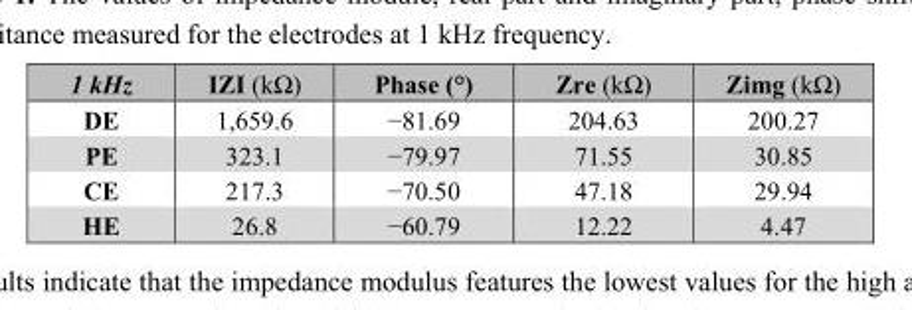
<table><thead><tr><td>1 kHz</td><td>IZI (kΩ)</td><td>Phase (°)</td><td>Zre (kΩ)</td><td>Zimg (kΩ)</td></tr></thead><tbody><tr><td>DE</td><td>1,659.6</td><td>−81.69</td><td>204.63</td><td>200.27</td></tr><tr><td>PE</td><td>323.1</td><td>−79.97</td><td>71.55</td><td>30.85</td></tr><tr><td>CE</td><td>217.3</td><td>−70.50</td><td>47.18</td><td>29.94</td></tr><tr><td>HE</td><td>26.8</td><td>−60.79</td><td>12.22</td><td>4.47</td></tr></tbody></table>